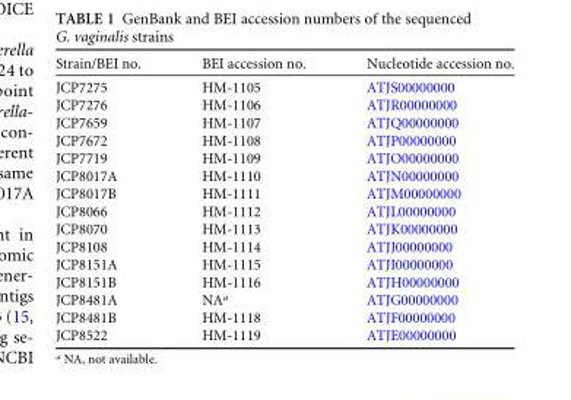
<table><thead><tr><td>Strain/BEI no.</td><td>BEI accession no.</td><td>Nucleotide accession no.</td></tr></thead><tbody><tr><td>JCP7275</td><td>HM-1105</td><td>ATJS00000000</td></tr><tr><td>JCP7276</td><td>HM-1106</td><td>ATJR00000000</td></tr><tr><td>JCP7659</td><td>HM-1107</td><td>ATJQ00000000</td></tr><tr><td>JCP7672</td><td>HM-1108</td><td>ATJP00000000</td></tr><tr><td>JCP7719</td><td>HM-1109</td><td>ATJO00000000</td></tr><tr><td>JCP8017A</td><td>HM-1110</td><td>ATJN00000000</td></tr><tr><td>JCP8017B</td><td>HM-1111</td><td>ATJM00000000</td></tr><tr><td>JCP8066</td><td>HM-1112</td><td>ATJL00000000</td></tr><tr><td>JCP8070</td><td>HM-1113</td><td>ATJK00000000</td></tr><tr><td>JCP8108</td><td>HM-1114</td><td>ATJJ00000000</td></tr><tr><td>JCP8151A</td><td>HM-1115</td><td>ATJI00000000</td></tr><tr><td>JCP8151B</td><td>HM-1116</td><td>ATJH00000000</td></tr><tr><td>JCP8481A</td><td>NA<sup>a</sup></td><td>ATJG00000000</td></tr><tr><td>JCP8481B</td><td>HM-1118</td><td>ATJF00000000</td></tr><tr><td>JCP8522</td><td>HM-1119</td><td>ATJE00000000</td></tr></tbody></table>